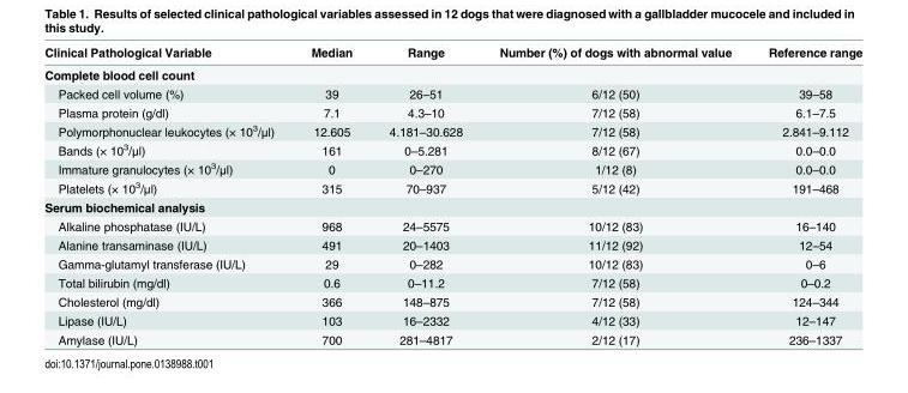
<table><thead><tr><td>Clinical Pathological Variable</td><td>Median</td><td>Range</td><td>Number (%) of dogs with abnormal value</td><td>Reference range</td></tr></thead><tbody><tr><td colspan="5">Complete blood cell count</td></tr><tr><td>Packed cell volume (%)</td><td>39</td><td>26–51</td><td>6/12 (50)</td><td>39–58</td></tr><tr><td>Plasma protein (g/dl)</td><td>7.1</td><td>4.3–10</td><td>7/12 (58)</td><td>6.1–7.5</td></tr><tr><td>Polymorphonuclear leukocytes (× 10<sup>3</sup>/μl)</td><td>12.605</td><td>4.181–30.628</td><td>7/12 (58)</td><td>2.841–9.112</td></tr><tr><td>Bands (× 10<sup>3</sup>/μl)</td><td>161</td><td>0–5.281</td><td>8/12 (67)</td><td>0.0–0.0</td></tr><tr><td>Immature granulocytes (× 10<sup>3</sup>/μl)</td><td>0</td><td>0–270</td><td>1/12 (8)</td><td>0.0–0.0</td></tr><tr><td>Platelets (× 10<sup>3</sup>/μl)</td><td>315</td><td>70–937</td><td>5/12 (42)</td><td>191–468</td></tr><tr><td colspan="5">Serum biochemical analysis</td></tr><tr><td>Alkaline phosphatase (IU/L)</td><td>968</td><td>24–5575</td><td>10/12 (83)</td><td>16–140</td></tr><tr><td>Alanine transaminase (IU/L)</td><td>491</td><td>20–1403</td><td>11/12 (92)</td><td>12–54</td></tr><tr><td>Gamma-glutamyl transferase (IU/L)</td><td>29</td><td>0–282</td><td>10/12 (83)</td><td>0–6</td></tr><tr><td>Total bilirubin (mg/dl)</td><td>0.6</td><td>0–11.2</td><td>7/12 (58)</td><td>0–0.2</td></tr><tr><td>Cholesterol (mg/dl)</td><td>366</td><td>148–875</td><td>7/12 (58)</td><td>124–344</td></tr><tr><td>Lipase (IU/L)</td><td>103</td><td>16–2332</td><td>4/12 (33)</td><td>12–147</td></tr><tr><td>Amylase (IU/L)</td><td>700</td><td>281–4817</td><td>2/12 (17)</td><td>236–1337</td></tr></tbody></table>